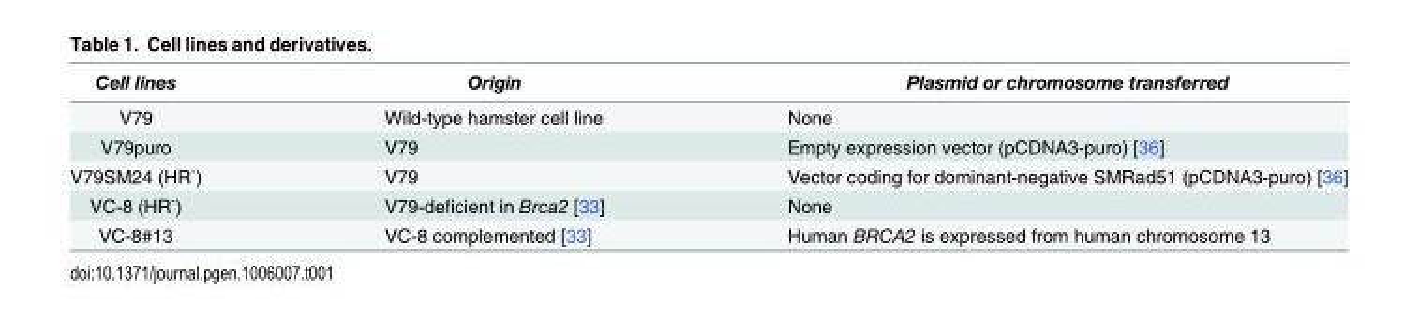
<table><thead><tr><td>Cell lines</td><td>Origin</td><td>Plasmid or chromosome transferred</td></tr></thead><tbody><tr><td>V79</td><td>Wild-type hamster cell line</td><td>None</td></tr><tr><td>V79puro</td><td>V79</td><td>Empty expression vector (pCDNA3-puro) [36]</td></tr><tr><td>V79SM24 (HR<sup>-</sup>)</td><td>V79</td><td>Vector coding for dominant-negative SMRad51 (pCDNA3-puro) [36]</td></tr><tr><td>VC-8 (HR<sup>-</sup>)</td><td>V79-deficient in Brca2 [33]</td><td>None</td></tr><tr><td>VC-8#13</td><td>VC-8 complemented [33]</td><td>Human BRCA2 is expressed from human chromosome 13</td></tr></tbody></table>